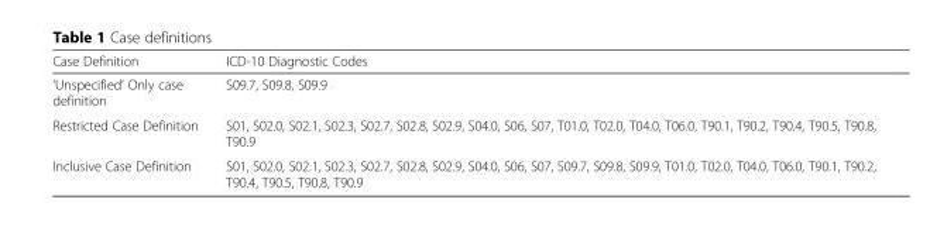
<table><thead><tr><td>Case Definition</td><td>ICD-10 Diagnostic Codes</td></tr></thead><tbody><tr><td>‘Unspecified’ Only case definition</td><td>S09.7, S09.8, S09.9</td></tr><tr><td>Restricted Case Definition</td><td>S01, S02.0, S02.1, S02.3, S02.7, S02.8, S02.9, S04.0, S06, S07, T01.0, T02.0, T04.0, T06.0, T90.1, T90.2, T90.4, T90.5, T90.8, T90.9</td></tr><tr><td>Inclusive Case Definition</td><td>S01, S02.0, S02.1, S02.3, S02.7, S02.8, S02.9, S04.0, S06, S07, S09.7, S09.8, S09.9, T01.0, T02.0, T04.0, T06.0, T90.1, T90.2, T90.4, T90.5, T90.8, T90.9</td></tr></tbody></table>